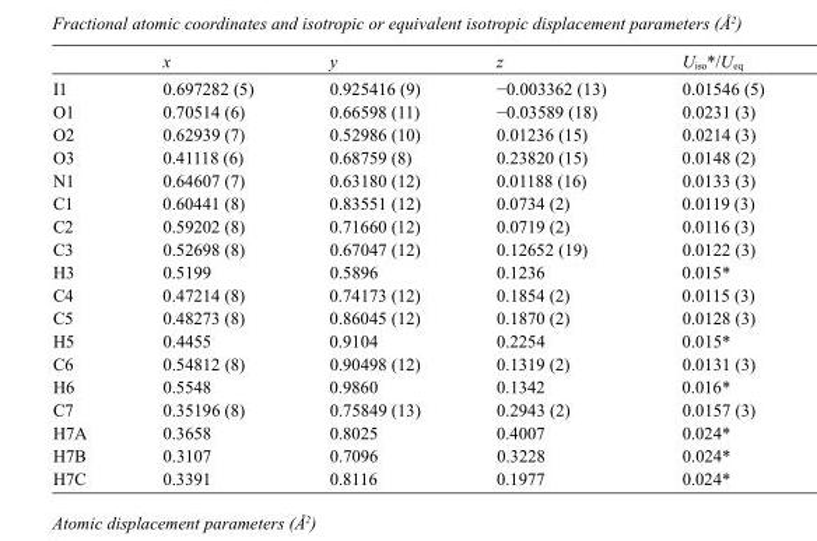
<table><thead><tr><td></td><td>x</td><td>y</td><td>z</td><td>U<sub>iso</sub>*/U<sub>eq</sub></td></tr></thead><tbody><tr><td>I1</td><td>0.697282 (5)</td><td>0.925416 (9)</td><td>−0.003362 (13)</td><td>0.01546 (5)</td></tr><tr><td>O1</td><td>0.70514 (6)</td><td>0.66598 (11)</td><td>−0.03589 (18)</td><td>0.0231 (3)</td></tr><tr><td>O2</td><td>0.62939 (7)</td><td>0.52986 (10)</td><td>0.01236 (15)</td><td>0.0214 (3)</td></tr><tr><td>O3</td><td>0.41118 (6)</td><td>0.68759 (8)</td><td>0.23820 (15)</td><td>0.0148 (2)</td></tr><tr><td>N1</td><td>0.64607 (7)</td><td>0.63180 (12)</td><td>0.01188 (16)</td><td>0.0133 (3)</td></tr><tr><td>C1</td><td>0.60441 (8)</td><td>0.83551 (12)</td><td>0.0734 (2)</td><td>0.0119 (3)</td></tr><tr><td>C2</td><td>0.59202 (8)</td><td>0.71660 (12)</td><td>0.0719 (2)</td><td>0.0116 (3)</td></tr><tr><td>C3</td><td>0.52698 (8)</td><td>0.67047 (12)</td><td>0.12652 (19)</td><td>0.0122 (3)</td></tr><tr><td>H3</td><td>0.5199</td><td>0.5896</td><td>0.1236</td><td>0.015*</td></tr><tr><td>C4</td><td>0.47214 (8)</td><td>0.74173 (12)</td><td>0.1854 (2)</td><td>0.0115 (3)</td></tr><tr><td>C5</td><td>0.48273 (8)</td><td>0.86045 (12)</td><td>0.1870 (2)</td><td>0.0128 (3)</td></tr><tr><td>H5</td><td>0.4455</td><td>0.9104</td><td>0.2254</td><td>0.015*</td></tr><tr><td>C6</td><td>0.54812 (8)</td><td>0.90498 (12)</td><td>0.1319 (2)</td><td>0.0131 (3)</td></tr><tr><td>H6</td><td>0.5548</td><td>0.9860</td><td>0.1342</td><td>0.016*</td></tr><tr><td>C7</td><td>0.35196 (8)</td><td>0.75849 (13)</td><td>0.2943 (2)</td><td>0.0157 (3)</td></tr><tr><td>H7A</td><td>0.3658</td><td>0.8025</td><td>0.4007</td><td>0.024*</td></tr><tr><td>H7B</td><td>0.3107</td><td>0.7096</td><td>0.3228</td><td>0.024*</td></tr><tr><td>H7C</td><td>0.3391</td><td>0.8116</td><td>0.1977</td><td>0.024*</td></tr></tbody></table>